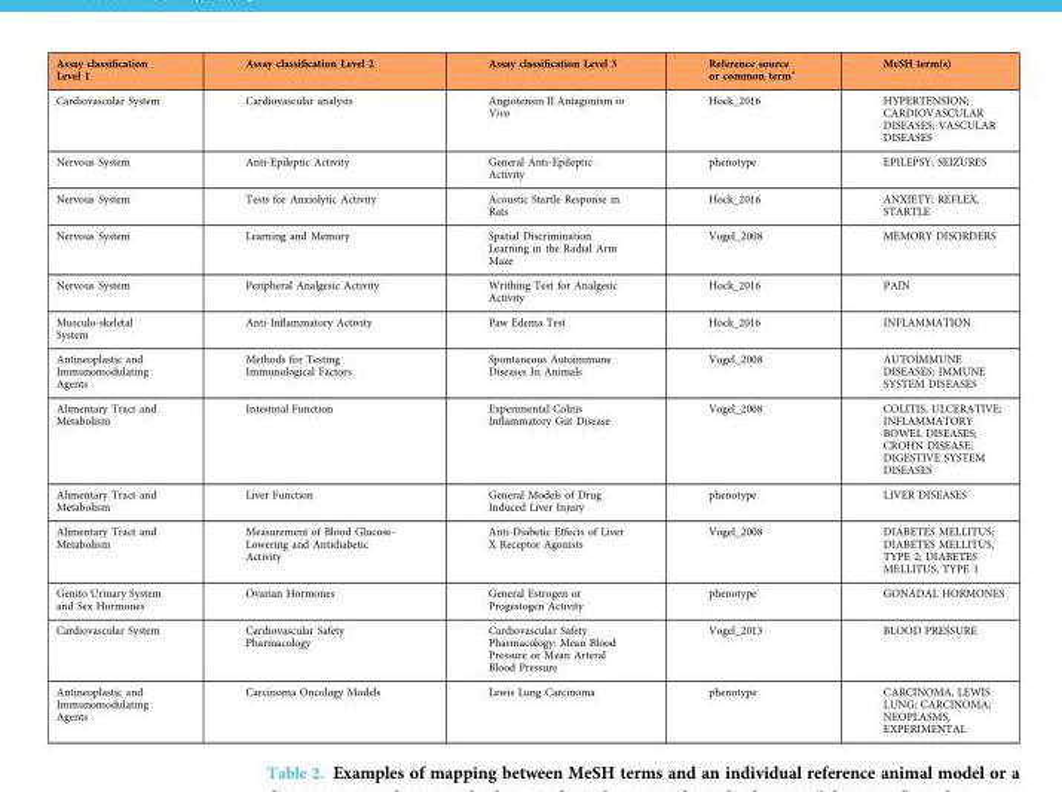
<table><thead><tr><td>Assay classification Level 1</td><td>Assay classification Level 2</td><td>Assay classification Level 3</td><td>Reference source or common term∗</td><td>MeSH term(s)</td></tr></thead><tbody><tr><td>Cardiovascular System</td><td>Cardiovascular analysis</td><td>Angiotensin II Antagonism in Vivo</td><td>Hock_2016</td><td>HYPERTENSION; CARDIOVASCULAR DISEASES; VASCULAR DISEASES</td></tr><tr><td>Nervous System</td><td>Anti-Epileptic Activity</td><td>General Anti-Epileptic Activity</td><td>phenotype</td><td>EPILEPSY; SEIZURES</td></tr><tr><td>Nervous System</td><td>Tests for Anxiolytic Activity</td><td>Acoustic Startle Response in Rats</td><td>Hock_2016</td><td>ANXIETY; REFLEX, STARTLE</td></tr><tr><td>Nervous System</td><td>Learning and Memory</td><td>Spatial Discrimination Learning in the Radial Arm Maze</td><td>Vogel_2008</td><td>MEMORY DISORDERS</td></tr><tr><td>Nervous System</td><td>Peripheral Analgesic Activity</td><td>Writhing Test for Analgesic Activity</td><td>Hock_2016</td><td>PAIN</td></tr><tr><td>Musculo-skeletal System</td><td>Anti-Inflammatory Activity</td><td>Paw Edema Test</td><td>Hock_2016</td><td>INFLAMMATION</td></tr><tr><td>Antineoplastic and Immunomodulating Agents</td><td>Methods for Testing Immunological Factors</td><td>Spontaneous Autoimmune Diseases In Animals</td><td>Vogel_2008</td><td>AUTOIMMUNE DISEASES; IMMUNE SYSTEM DISEASES</td></tr><tr><td>Alimentary Tract and Metabolism</td><td>Intestinal Function</td><td>Experimental Colitis Inflammatory Gut Disease</td><td>Vogel_2008</td><td>COLITIS, ULCERATIVE; INFLAMMATORY BOWEL DISEASES; CROHN DISEASE; DIGESTIVE SYSTEM DISEASES</td></tr><tr><td>Alimentary Tract and Metabolism</td><td>Liver Function</td><td>General Models of Drug Induced Liver Injury</td><td>phenotype</td><td>LIVER DISEASES</td></tr><tr><td>Alimentary Tract and Metabolism</td><td>Measurement of Blood Glucose- Lowering and Antidiabetic Activity</td><td>Anti-Diabetic Effects of Liver X Receptor Agonists</td><td>Vogel_2008</td><td>DIABETES MELLITUS; DIABETES MELLITUS, TYPE 2; DIABETES MELLITUS, TYPE 1</td></tr><tr><td>Genito Urinary System and Sex Hormones</td><td>Ovarian Hormones</td><td>General Estrogen or Progestogen Activity</td><td>phenotype</td><td>GONADAL HORMONES</td></tr><tr><td>Cardiovascular System</td><td>Cardiovascular Safety Pharmacology</td><td>Cardiovascular Safety Pharmacology: Mean Blood Pressure or Mean Arteral Blood Pressure</td><td>Vogel_2013</td><td>BLOOD PRESSURE</td></tr><tr><td>Antineoplastic and Immunomodulating Agents</td><td>Carcinoma Oncology Models</td><td>Lewis Lung Carcinoma</td><td>phenotype</td><td>CARCINOMA, LEWIS LUNG; CARCINOMA; NEOPLASMS, EXPERIMENTAL</td></tr></tbody></table>